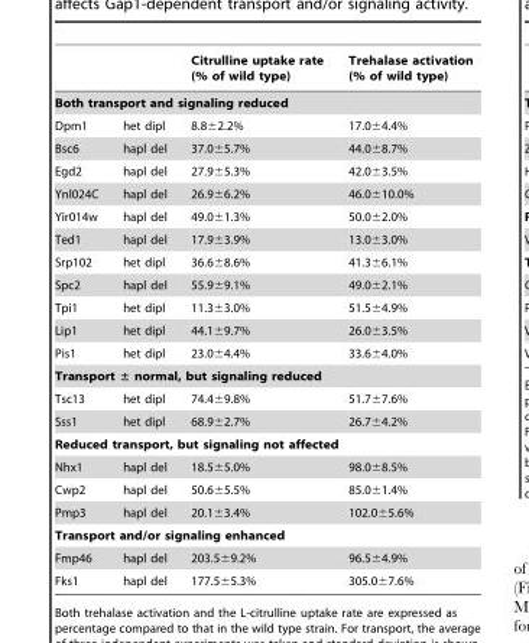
<table><thead><tr><td></td><td></td><td>Citrulline uptake rate (% of wild type)</td><td>Trehalase activation (% of wild type)</td></tr></thead><tbody><tr><td colspan="4">Both transport and signaling reduced</td></tr><tr><td>Dpm1</td><td>het dipl</td><td>8.8±2.2%</td><td>17.0±4.4%</td></tr><tr><td>Bsc6</td><td>hapl del</td><td>37.0±5.7%</td><td>44.0±8.7%</td></tr><tr><td>Egd2</td><td>hapl del</td><td>27.9±5.3%</td><td>42.0±3.5%</td></tr><tr><td>Ynl024C</td><td>hapl del</td><td>26.9±6.2%</td><td>46.0±10.0%</td></tr><tr><td>Yir014w</td><td>hapl del</td><td>49.0±1.3%</td><td>50.0±2.0%</td></tr><tr><td>Ted1</td><td>hapl del</td><td>17.9±3.9%</td><td>13.0±3.0%</td></tr><tr><td>Srp102</td><td>het dipl</td><td>36.6±8.6%</td><td>41.3±6.1%</td></tr><tr><td>Spc2</td><td>hapl del</td><td>55.9±9.1%</td><td>49.0±2.1%</td></tr><tr><td>Tpi1</td><td>het dipl</td><td>11.3±3.0%</td><td>51.5±4.9%</td></tr><tr><td>Lip1</td><td>het dipl</td><td>44.1±9.7%</td><td>26.0±3.5%</td></tr><tr><td>Pis1</td><td>het dipl</td><td>23.0±4.4%</td><td>33.6±4.0%</td></tr><tr><td colspan="4">Transport ± normal, but signaling reduced</td></tr><tr><td>Tsc13</td><td>het dipl</td><td>74.4±9.8%</td><td>51.7±7.6%</td></tr><tr><td>Sss1</td><td>het dipl</td><td>68.9±2.7%</td><td>26.7±4.2%</td></tr><tr><td colspan="4">Reduced transport, but signaling not affected</td></tr><tr><td>Nhx1</td><td>hapl del</td><td>18.5±5.0%</td><td>98.0±8.5%</td></tr><tr><td>Cwp2</td><td>hapl del</td><td>50.6±5.5%</td><td>85.0±1.4%</td></tr><tr><td>Pmp3</td><td>hapl del</td><td>20.1±3.4%</td><td>102.0±5.6%</td></tr><tr><td colspan="4">Transport and/or signaling enhanced</td></tr><tr><td>Fmp46</td><td>hapl del</td><td>203.5±9.2%</td><td>96.5±4.9%</td></tr><tr><td>Fks1</td><td>hapl del</td><td>177.5±5.3%</td><td>305.0±7.6%</td></tr></tbody></table>